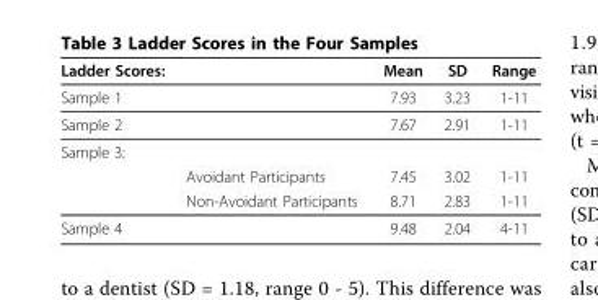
<table><thead><tr><td>Ladder Scores:</td><td></td><td>Mean</td><td>SD</td><td>Range</td></tr></thead><tbody><tr><td>Sample 1</td><td></td><td>7.93</td><td>3.23</td><td>1-11</td></tr><tr><td>Sample 2</td><td></td><td>7.67</td><td>2.91</td><td>1-11</td></tr><tr><td colspan="5">Sample 3:</td></tr><tr><td></td><td>Avoidant Participants</td><td>7.45</td><td>3.02</td><td>1-11</td></tr><tr><td></td><td>Non-Avoidant Participants</td><td>8.71</td><td>2.83</td><td>1-11</td></tr><tr><td>Sample 4</td><td></td><td>9.48</td><td>2.04</td><td>4-11</td></tr></tbody></table>